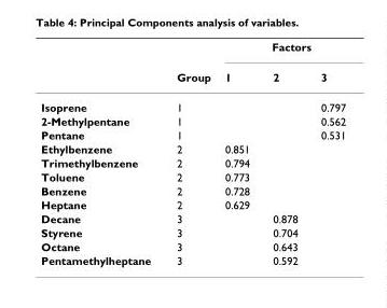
<table><thead><tr><td rowspan="2"></td><td rowspan="2">Group</td><td colspan="3">Factors</td></tr><tr><td>1</td><td>2</td><td>3</td></tr></thead><tbody><tr><td>Isoprene</td><td>1</td><td></td><td></td><td>0.797</td></tr><tr><td>2-Methylpentane</td><td>1</td><td></td><td></td><td>0.562</td></tr><tr><td>Pentane</td><td>1</td><td></td><td></td><td>0.531</td></tr><tr><td>Ethylbenzene</td><td>2</td><td>0.851</td><td></td><td></td></tr><tr><td>Trimethylbenzene</td><td>2</td><td>0.794</td><td></td><td></td></tr><tr><td>Toluene</td><td>2</td><td>0.773</td><td></td><td></td></tr><tr><td>Benzene</td><td>2</td><td>0.728</td><td></td><td></td></tr><tr><td>Heptane</td><td>2</td><td>0.629</td><td></td><td></td></tr><tr><td>Decane</td><td>3</td><td></td><td>0.878</td><td></td></tr><tr><td>Styrene</td><td>3</td><td></td><td>0.704</td><td></td></tr><tr><td>Octane</td><td>3</td><td></td><td>0.643</td><td></td></tr><tr><td>Pentamethylheptane</td><td>3</td><td></td><td>0.592</td><td></td></tr></tbody></table>